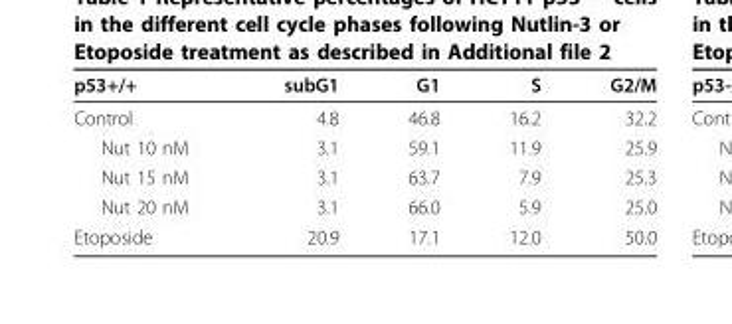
<table><thead><tr><td>p53+/+</td><td>subG1</td><td>G1</td><td>S</td><td>G2/M</td></tr></thead><tbody><tr><td>Control</td><td>4.8</td><td>46.8</td><td>16.2</td><td>32.2</td></tr><tr><td>Nut 10 nM</td><td>3.1</td><td>59.1</td><td>11.9</td><td>25.9</td></tr><tr><td>Nut 15 nM</td><td>3.1</td><td>63.7</td><td>7.9</td><td>25.3</td></tr><tr><td>Nut 20 nM</td><td>3.1</td><td>66.0</td><td>5.9</td><td>25.0</td></tr><tr><td>Etoposide</td><td>20.9</td><td>17.1</td><td>12.0</td><td>50.0</td></tr></tbody></table>